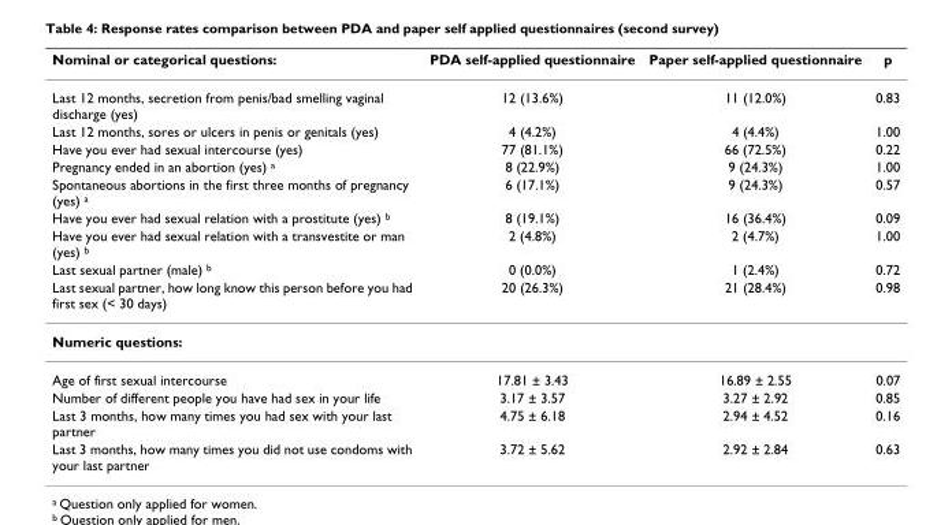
<table><thead><tr><td>Nominal or categorical questions:</td><td>PDA self-applied questionnaire</td><td>Paper self-applied questionnaire</td><td>p</td></tr></thead><tbody><tr><td>Last 12 months, secretion from penis/bad smelling vaginal discharge (yes)</td><td>12 (13.6%)</td><td>11 (12.0%)</td><td>0.83</td></tr><tr><td>Last 12 months, sores or ulcers in penis or genitals (yes)</td><td>4 (4.2%)</td><td>4 (4.4%)</td><td>1.00</td></tr><tr><td>Have you ever had sexual intercourse (yes)</td><td>77 (81.1%)</td><td>66 (72.5%)</td><td>0.22</td></tr><tr><td>Pregnancy ended in an abortion (yes) <sup>a</sup></td><td>8 (22.9%)</td><td>9 (24.3%)</td><td>1.00</td></tr><tr><td>Spontaneous abortions in the first three months of pregnancy (yes) <sup>a</sup></td><td>6 (17.1%)</td><td>9 (24.3%)</td><td>0.57</td></tr><tr><td>Have you ever had sexual relation with a prostitute (yes) <sup>b</sup></td><td>8 (19.1%)</td><td>16 (36.4%)</td><td>0.09</td></tr><tr><td>Have you ever had sexual relation with a transvestite or man (yes) <sup>b</sup></td><td>2 (4.8%)</td><td>2 (4.7%)</td><td>1.00</td></tr><tr><td>Last sexual partner (male) <sup>b</sup></td><td>0 (0.0%)</td><td>1 (2.4%)</td><td>0.72</td></tr><tr><td>Last sexual partner, how long know this person before you had first sex (&lt; 30 days)</td><td>20 (26.3%)</td><td>21 (28.4%)</td><td>0.98</td></tr><tr><td colspan="4">Numeric questions:</td></tr><tr><td>Age of first sexual intercourse</td><td>17.81 ± 3.43</td><td>16.89 ± 2.55</td><td>0.07</td></tr><tr><td>Number of different people you have had sex in your life</td><td>3.17 ± 3.57</td><td>3.27 ± 2.92</td><td>0.85</td></tr><tr><td>Last 3 months, how many times you had sex with your last partner</td><td>4.75 ± 6.18</td><td>2.94 ± 4.52</td><td>0.16</td></tr><tr><td>Last 3 months, how many times you did not use condoms with your last partner</td><td>3.72 ± 5.62</td><td>2.92 ± 2.84</td><td>0.63</td></tr></tbody></table>